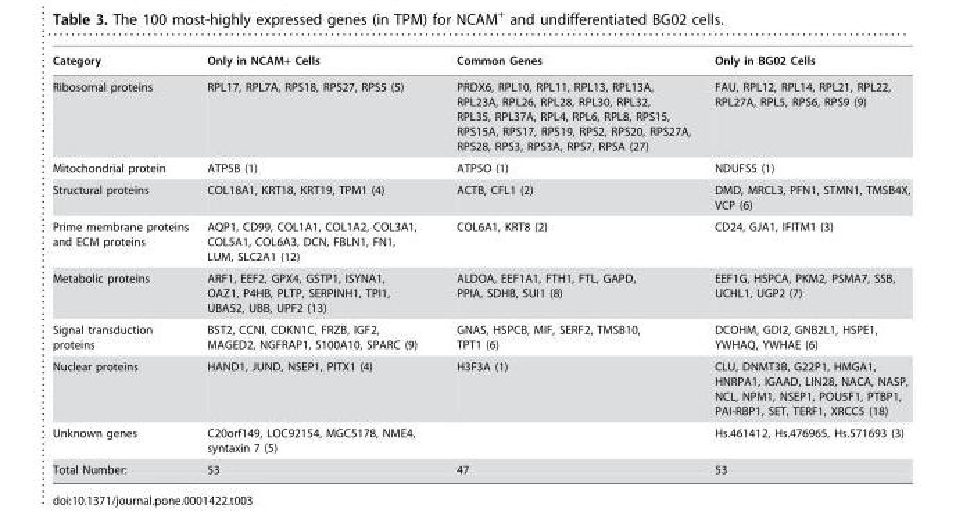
<table><thead><tr><td>Category</td><td>Only in NCAM+ Cells</td><td>Common Genes</td><td>Only in BG02 Cells</td></tr></thead><tbody><tr><td>Ribosomal proteins</td><td>RPL17, RPL7A, RPS18, RPS27, RPS5 (5)</td><td>PRDX6, RPL10, RPL11, RPL13, RPL13A, RPL23A, RPL26, RPL28, RPL30, RPL32, RPL35, RPL37A, RPL4, RPL6, RPL8, RPS15, RPS15A, RPS17, RPS19, RPS2, RPS20, RPS27A, RPS28, RPS3, RPS3A, RPS7, RPSA (27)</td><td>FAU, RPL12, RPL14, RPL21, RPL22, RPL27A, RPL5, RPS6, RPS9 (9)</td></tr><tr><td>Mitochondrial protein</td><td>ATP5B (1)</td><td>ATP5O (1)</td><td>NDUFS5 (1)</td></tr><tr><td>Structural proteins</td><td>COL18A1, KRT18, KRT19, TPM1 (4)</td><td>ACTB, CFL1 (2)</td><td>DMD, MRCL3, PFN1, STMN1, TMSB4X, VCP (6)</td></tr><tr><td>Prime membrane proteins and ECM proteins</td><td>AQP1, CD99, COL1A1, COL1A2, COL3A1, COL5A1, COL6A3, DCN, FBLN1, FN1, LUM, SLC2A1 (12)</td><td>COL6A1, KRT8 (2)</td><td>CD24, GJA1, IFITM1 (3)</td></tr><tr><td>Metabolic proteins</td><td>ARF1, EEF2, GPX4, GSTP1, ISYNA1, OAZ1, P4HB, PLTP, SERPINH1, TPI1, UBA52, UBB, UPF2 (13)</td><td>ALDOA, EEF1A1, FTH1, FTL, GAPD, PPIA, SDHB, SUI1 (8)</td><td>EEF1G, HSPCA, PKM2, PSMA7, SSB, UCHL1, UGP2 (7)</td></tr><tr><td>Signal transduction proteins</td><td>BST2, CCNI, CDKN1C, FRZB, IGF2, MAGED2, NGFRAP1, S100A10, SPARC (9)</td><td>GNAS, HSPCB, MIF, SERF2, TMSB10, TPT1 (6)</td><td>DCOHM, GDI2, GNB2L1, HSPE1, YWHAQ, YWHAE (6)</td></tr><tr><td>Nuclear proteins</td><td>HAND1, JUND, NSEP1, PITX1 (4)</td><td>H3F3A (1)</td><td>CLU, DNMT3B, G22P1, HMGA1, HNRPA1, IGAAD, LIN28, NACA, NASP, NCL, NPM1, NSEP1, POU5F1, PTBP1, PAI-RBP1, SET, TERF1, XRCC5 (18)</td></tr><tr><td>Unknown genes</td><td>C20orf149, LOC92154, MGC5178, NME4, syntaxin 7 (5)</td><td></td><td>Hs.461412, Hs.476965, Hs.571693 (3)</td></tr><tr><td>Total Number:</td><td>53</td><td>47</td><td>53</td></tr></tbody></table>